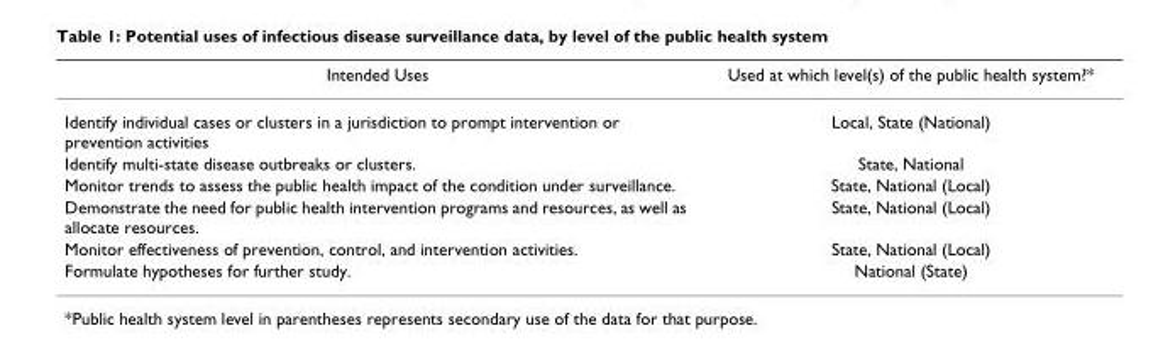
<table><thead><tr><td>Intended Uses</td><td>Used at which level(s) of the public health system?*</td></tr></thead><tbody><tr><td>Identify individual cases or clusters in a jurisdiction to prompt intervention or prevention activities</td><td>Local, State (National)</td></tr><tr><td>Identify multi-state disease outbreaks or clusters.</td><td>State, National</td></tr><tr><td>Monitor trends to assess the public health impact of the condition under surveillance.</td><td>State, National (Local)</td></tr><tr><td>Demonstrate the need for public health intervention programs and resources, as well as allocate resources.</td><td>State, National (Local)</td></tr><tr><td>Monitor effectiveness of prevention, control, and intervention activities.</td><td>State, National (Local)</td></tr><tr><td>Formulate hypotheses for further study.</td><td>National (State)</td></tr></tbody></table>